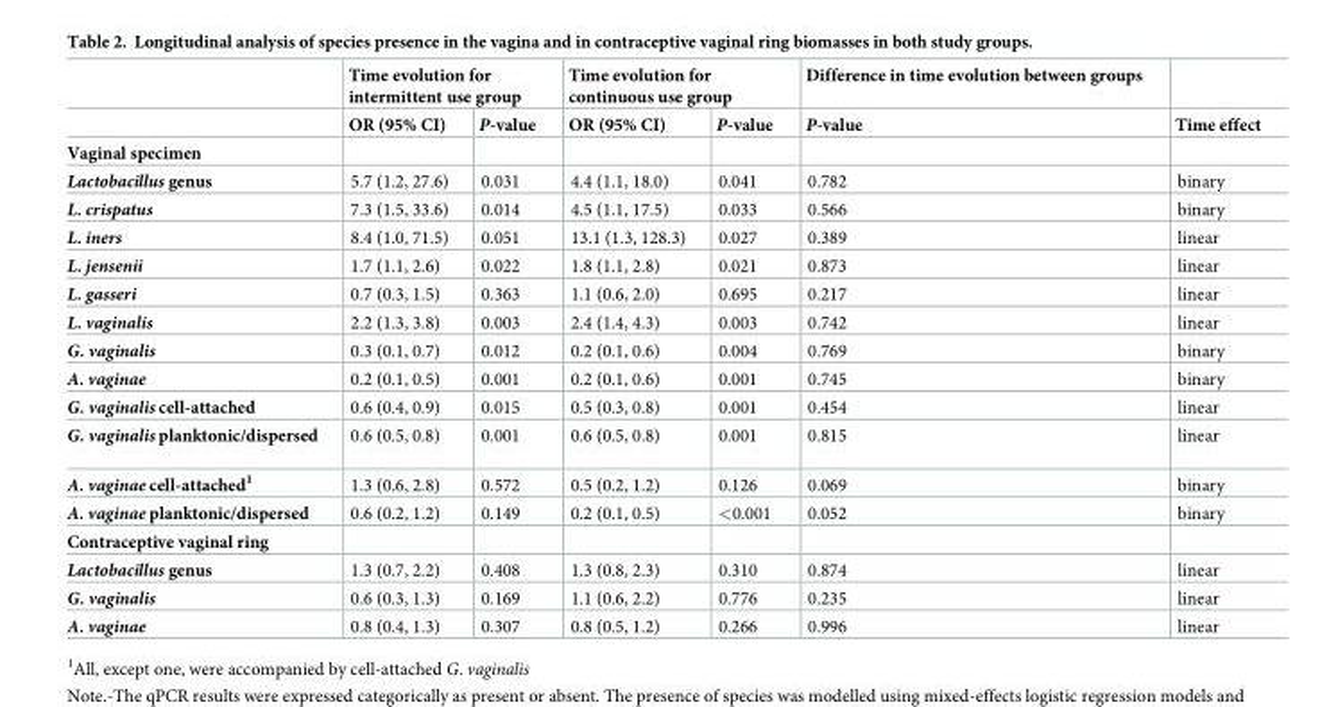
<table><thead><tr><td rowspan="2"></td><td colspan="2">Time evolution for intermittent use group</td><td colspan="2">Time evolution for continuous use group</td><td rowspan="2">Difference in time evolution between groups P-value</td><td rowspan="2">Time effect</td></tr><tr><td>OR (95% CI)</td><td>P-value</td><td>OR (95% CI)</td><td>P-value</td></tr></thead><tbody><tr><td colspan="7">Vaginal specimen</td></tr><tr><td>Lactobacillus genus</td><td>5.7 (1.2, 27.6)</td><td>0.031</td><td>4.4 (1.1, 18.0)</td><td>0.041</td><td>0.782</td><td>binary</td></tr><tr><td>L. crispatus</td><td>7.3 (1.5, 33.6)</td><td>0.014</td><td>4.5 (1.1, 17.5)</td><td>0.033</td><td>0.566</td><td>binary</td></tr><tr><td>L. iners</td><td>8.4 (1.0, 71.5)</td><td>0.051</td><td>13.1 (1.3, 128.3)</td><td>0.027</td><td>0.389</td><td>linear</td></tr><tr><td>L. jensenii</td><td>1.7 (1.1, 2.6)</td><td>0.022</td><td>1.8 (1.1, 2.8)</td><td>0.021</td><td>0.873</td><td>linear</td></tr><tr><td>L. gasseri</td><td>0.7 (0.3, 1.5)</td><td>0.363</td><td>1.1 (0.6, 2.0)</td><td>0.695</td><td>0.217</td><td>linear</td></tr><tr><td>L. vaginalis</td><td>2.2 (1.3, 3.8)</td><td>0.003</td><td>2.4 (1.4, 4.3)</td><td>0.003</td><td>0.742</td><td>linear</td></tr><tr><td>G. vaginalis</td><td>0.3 (0.1, 0.7)</td><td>0.012</td><td>0.2 (0.1, 0.6)</td><td>0.004</td><td>0.769</td><td>binary</td></tr><tr><td>A. vaginae</td><td>0.2 (0.1, 0.5)</td><td>0.001</td><td>0.2 (0.1, 0.6)</td><td>0.001</td><td>0.745</td><td>binary</td></tr><tr><td>G. vaginalis cell-attached</td><td>0.6 (0.4, 0.9)</td><td>0.015</td><td>0.5 (0.3, 0.8)</td><td>0.001</td><td>0.454</td><td>linear</td></tr><tr><td>G. vaginalis planktonic/dispersed</td><td>0.6 (0.5, 0.8)</td><td>0.001</td><td>0.6 (0.5, 0.8)</td><td>0.001</td><td>0.815</td><td>linear</td></tr><tr><td>A. vaginae cell-attached<sup>1</sup></td><td>1.3 (0.6, 2.8)</td><td>0.572</td><td>0.5 (0.2, 1.2)</td><td>0.126</td><td>0.069</td><td>binary</td></tr><tr><td>A. vaginae planktonic/dispersed</td><td>0.6 (0.2, 1.2)</td><td>0.149</td><td>0.2 (0.1, 0.5)</td><td>&lt;0.001</td><td>0.052</td><td>binary</td></tr><tr><td colspan="7">Contraceptive vaginal ring</td></tr><tr><td>Lactobacillus genus</td><td>1.3 (0.7, 2.2)</td><td>0.408</td><td>1.3 (0.8, 2.3)</td><td>0.310</td><td>0.874</td><td>linear</td></tr><tr><td>G. vaginalis</td><td>0.6 (0.3, 1.3)</td><td>0.169</td><td>1.1 (0.6, 2.2)</td><td>0.776</td><td>0.235</td><td>linear</td></tr><tr><td>A. vaginae</td><td>0.8 (0.4, 1.3)</td><td>0.307</td><td>0.8 (0.5, 1.2)</td><td>0.266</td><td>0.996</td><td>linear</td></tr></tbody></table>